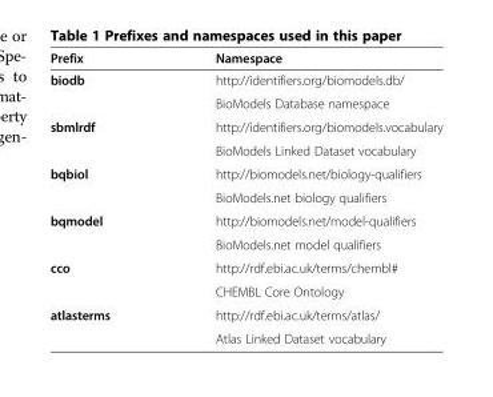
<table><thead><tr><td>Prefix</td><td>Namespace</td></tr></thead><tbody><tr><td rowspan="2">biodb</td><td>http://identifiers.org/biomodels.db/</td></tr><tr><td>BioModels Database namespace</td></tr><tr><td rowspan="2">sbmlrdf</td><td>http://identifiers.org/biomodels.vocabulary</td></tr><tr><td>BioModels Linked Dataset vocabulary</td></tr><tr><td rowspan="2">bqbiol</td><td>http://biomodels.net/biology-qualifiers</td></tr><tr><td>BioModels.net biology qualifiers</td></tr><tr><td rowspan="2">bqmodel</td><td>http://biomodels.net/model-qualifiers</td></tr><tr><td>BioModels.net model qualifiers</td></tr><tr><td rowspan="2">cco</td><td>http://rdf.ebi.ac.uk/terms/chembl#</td></tr><tr><td>CHEMBL Core Ontology</td></tr><tr><td rowspan="2">atlasterms</td><td>http://rdf.ebi.ac.uk/terms/atlas/</td></tr><tr><td>Atlas Linked Dataset vocabulary</td></tr></tbody></table>